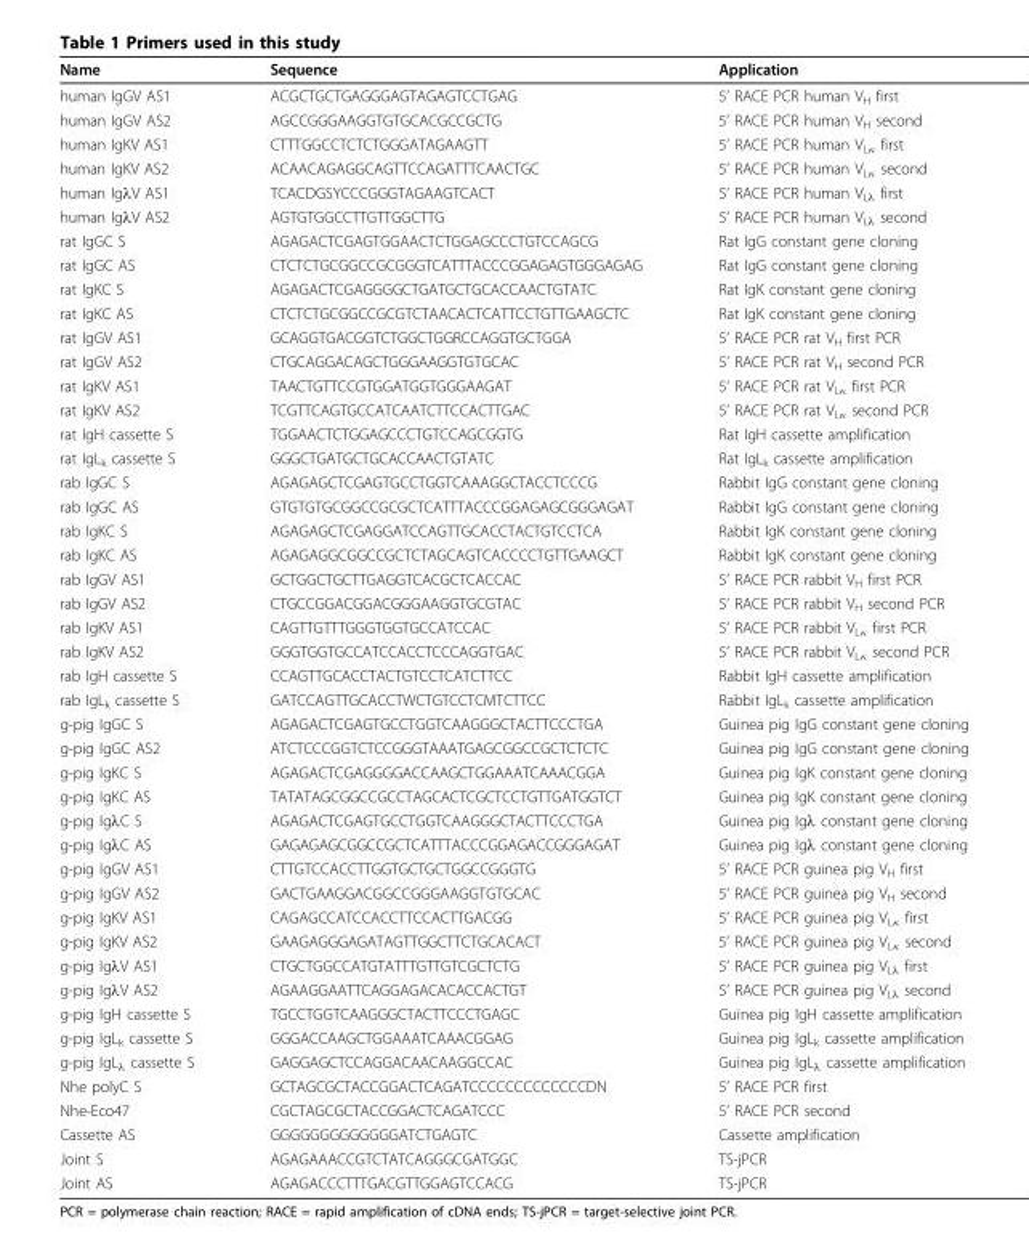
<table><thead><tr><td>Name</td><td>Sequence</td><td>Application</td></tr></thead><tbody><tr><td>human IgGV AS1</td><td>ACGCTGCTGAGGGAGTAGAGTCCTGAG</td><td>5’ RACE PCR human V<sub>H</sub> first</td></tr><tr><td>human IgGV AS2</td><td>AGCCGGGAAGGTGTGCACGCCGCTG</td><td>5’ RACE PCR human V<sub>H</sub> second</td></tr><tr><td>human IgKV AS1</td><td>CTTTGGCCTCTCTGGGATAGAAGTT</td><td>5’ RACE PCR human V<sub>Lκ</sub> first</td></tr><tr><td>human IgKV AS2</td><td>ACAACAGAGGCAGTTCCAGATTTCAACTGC</td><td>5’ RACE PCR human V<sub>Lκ</sub> second</td></tr><tr><td>human IgλV AS1</td><td>TCACDGSYCCCGGGTAGAAGTCACT</td><td>5’ RACE PCR human V<sub>Lλ</sub> first</td></tr><tr><td>human IgλV AS2</td><td>AGTGTGGCCTTGTTGGCTTG</td><td>5’ RACE PCR human V<sub>Lλ</sub> second</td></tr><tr><td>rat IgGC S</td><td>AGAGACTCGAGTGGAACTCTGGAGCCCTGTCCAGCG</td><td>Rat IgG constant gene cloning</td></tr><tr><td>rat IgGC AS</td><td>CTCTCTGCGGCCGCGGGTCATTTACCCGGAGAGTGGGAGAG</td><td>Rat IgG constant gene cloning</td></tr><tr><td>rat IgKC S</td><td>AGAGACTCGAGGGGCTGATGCTGCACCAACTGTATC</td><td>Rat IgK constant gene cloning</td></tr><tr><td>rat IgKC AS</td><td>CTCTCTGCGGCCGCGTCTAACACTCATTCCTGTTGAAGCTC</td><td>Rat IgK constant gene cloning</td></tr><tr><td>rat IgGV AS1</td><td>GCAGGTGACGGTCTGGCTGGRCCAGGTGCTGGA</td><td>5’ RACE PCR rat V<sub>H</sub> first PCR</td></tr><tr><td>rat IgGV AS2</td><td>CTGCAGGACAGCTGGGAAGGTGTGCAC</td><td>5’ RACE PCR rat V<sub>H</sub> second PCR</td></tr><tr><td>rat IgKV AS1</td><td>TAACTGTTCCGTGGATGGTGGGAAGAT</td><td>5’ RACE PCR rat V<sub>Lκ</sub> first PCR</td></tr><tr><td>rat IgKV AS2</td><td>TCGTTCAGTGCCATCAATCTTCCACTTGAC</td><td>5’ RACE PCR rat V<sub>Lκ</sub> second PCR</td></tr><tr><td>rat IgH cassette S</td><td>TGGAACTCTGGAGCCCTGTCCAGCGGTG</td><td>Rat IgH cassette amplification</td></tr><tr><td>rat IgL<sub>k</sub> cassette S</td><td>GGGCTGATGCTGCACCAACTGTATC</td><td>Rat IgL<sub>k</sub> cassette amplification</td></tr><tr><td>rab IgGC S</td><td>AGAGAGCTCGAGTGCCTGGTCAAAGGCTACCTCCCG</td><td>Rabbit IgG constant gene cloning</td></tr><tr><td>rab IgGC AS</td><td>GTGTGTGCGGCCGCGCTCATTTACCCGGAGAGCGGGAGAT</td><td>Rabbit IgG constant gene cloning</td></tr><tr><td>rab IgKC S</td><td>AGAGAGCTCGAGGATCCAGTTGCACCTACTGTCCTCA</td><td>Rabbit IgK constant gene cloning</td></tr><tr><td>rab IgKC AS</td><td>AGAGAGGCGGCCGCTCTAGCAGTCACCCCTGTTGAAGCT</td><td>Rabbit IgK constant gene cloning</td></tr><tr><td>rab IgGV AS1</td><td>GCTGGCTGCTTGAGGTCACGCTCACCAC</td><td>5’ RACE PCR rabbit V<sub>H</sub> first PCR</td></tr><tr><td>rab IgGV AS2</td><td>CTGCCGGACGGACGGGAAGGTGCGTAC</td><td>5’ RACE PCR rabbit V<sub>H</sub> second PCR</td></tr><tr><td>rab IgKV AS1</td><td>CAGTTGTTTGGGTGGTGCCATCCAC</td><td>5’ RACE PCR rabbit V<sub>Lκ</sub> first PCR</td></tr><tr><td>rab IgKV AS2</td><td>GGGTGGTGCCATCCACCTCCCAGGTGAC</td><td>5’ RACE PCR rabbit V<sub>Lκ</sub> second PCR</td></tr><tr><td>rab IgH cassette S</td><td>CCAGTTGCACCTACTGTCCTCATCTTCC</td><td>Rabbit IgH cassette amplification</td></tr><tr><td>rab IgL<sub>k</sub> cassette S</td><td>GATCCAGTTGCACCTWCTGTCCTCMTCTTCC</td><td>Rabbit IgL<sub>k</sub> cassette amplification</td></tr><tr><td>g-pig IgGC S</td><td>AGAGACTCGAGTGCCTGGTCAAGGGCTACTTCCCTGA</td><td>Guinea pig IgG constant gene cloning</td></tr><tr><td>g-pig IgGC AS2</td><td>ATCTCCCGGTCTCCGGGTAAATGAGCGGCCGCTCTCTC</td><td>Guinea pig IgG constant gene cloning</td></tr><tr><td>g-pig IgKC S</td><td>AGAGACTCGAGGGGACCAAGCTGGAAATCAAACGGA</td><td>Guinea pig IgK constant gene cloning</td></tr><tr><td>g-pig IgKC AS</td><td>TATATAGCGGCCGCCTAGCACTCGCTCCTGTTGATGGTCT</td><td>Guinea pig IgK constant gene cloning</td></tr><tr><td>g-pig IgλC S</td><td>AGAGACTCGAGTGCCTGGTCAAGGGCTACTTCCCTGA</td><td>Guinea pig Igλ constant gene cloning</td></tr><tr><td>g-pig IgλC AS</td><td>GAGAGAGCGGCCGCTCATTTACCCGGAGACCGGGAGAT</td><td>Guinea pig Igλ constant gene cloning</td></tr><tr><td>g-pig IgGV AS1</td><td>CTTGTCCACCTTGGTGCTGCTGGCCGGGTG</td><td>5’ RACE PCR guinea pig V<sub>H</sub> first</td></tr><tr><td>g-pig IgGV AS2</td><td>GACTGAAGGACGGCCGGGAAGGTGTGCAC</td><td>5’ RACE PCR guinea pig V<sub>H</sub> second</td></tr><tr><td>g-pig IgKV AS1</td><td>CAGAGCCATCCACCTTCCACTTGACGG</td><td>5’ RACE PCR guinea pig V<sub>Lκ</sub> first</td></tr><tr><td>g-pig IgKV AS2</td><td>GAAGAGGGAGATAGTTGGCTTCTGCACACT</td><td>5’ RACE PCR guinea pig V<sub>Lκ</sub> second</td></tr><tr><td>g-pig IgλV AS1</td><td>CTGCTGGCCATGTATTTGTTGTCGCTCTG</td><td>5’ RACE PCR guinea pig V<sub>Lλ</sub> first</td></tr><tr><td>g-pig IgλV AS2</td><td>AGAAGGAATTCAGGAGACACACCACTGT</td><td>5’ RACE PCR guinea pig V<sub>Lλ</sub> second</td></tr><tr><td>g-pig IgH cassette S</td><td>TGCCTGGTCAAGGGCTACTTCCCTGAGC</td><td>Guinea pig IgH cassette amplification</td></tr><tr><td>g-pig IgL<sub>k</sub> cassette S</td><td>GGGACCAAGCTGGAAATCAAACGGAG</td><td>Guinea pig IgL<sub>k</sub> cassette amplification</td></tr><tr><td>g-pig IgL<sub>λ</sub> cassette S</td><td>GAGGAGCTCCAGGACAACAAGGCCAC</td><td>Guinea pig IgL<sub>λ</sub> cassette amplification</td></tr><tr><td>Nhe polyC S</td><td>GCTAGCGCTACCGGACTCAGATCCCCCCCCCCCCCDN</td><td>5’ RACE PCR first</td></tr><tr><td>Nhe-Eco47</td><td>CGCTAGCGCTACCGGACTCAGATCCC</td><td>5’ RACE PCR second</td></tr><tr><td>Cassette AS</td><td>GGGGGGGGGGGGGATCTGAGTC</td><td>Cassette amplification</td></tr><tr><td>Joint S</td><td>AGAGAAACCGTCTATCAGGGCGATGGC</td><td>TS-jPCR</td></tr><tr><td>Joint AS</td><td>AGAGACCCTTTGACGTTGGAGTCCACG</td><td>TS-jPCR</td></tr></tbody></table>